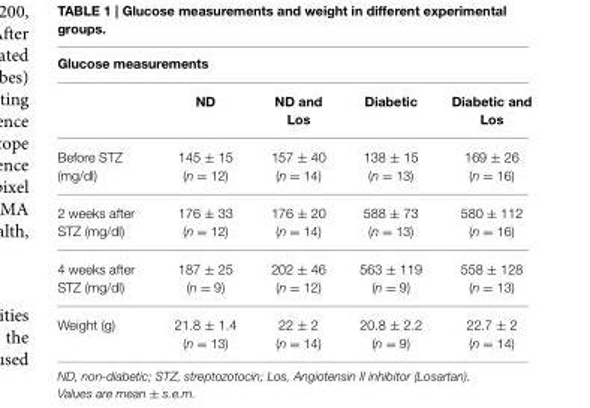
<table><thead><tr><td colspan="5">Glucose measurements</td></tr><tr><td></td><td>ND</td><td>ND and Los</td><td>Diabetic</td><td>Diabetic and Los</td></tr></thead><tbody><tr><td>Before STZ (mg/dl)</td><td>145 ± 15 (n = 12)</td><td>157 ± 40 (n = 14)</td><td>138 ± 15 (n = 13)</td><td>169 ± 26 (n = 16)</td></tr><tr><td>2 weeks after STZ (mg/dl)</td><td>176 ± 33 (n = 12)</td><td>176 ± 20 (n = 14)</td><td>588 ± 73 (n = 13)</td><td>580 ± 112 (n = 16)</td></tr><tr><td>4 weeks after STZ (mg/dl)</td><td>187 ± 25 (n = 9)</td><td>202 ± 46 (n = 12)</td><td>563 ± 119 (n = 9)</td><td>558 ± 128 (n = 13)</td></tr><tr><td>Weight (g)</td><td>21.8 ± 1.4 (n = 13)</td><td>22 ± 2 (n = 14)</td><td>20.8 ± 2.2 (n = 9)</td><td>22.7 ± 2 (n = 14)</td></tr></tbody></table>